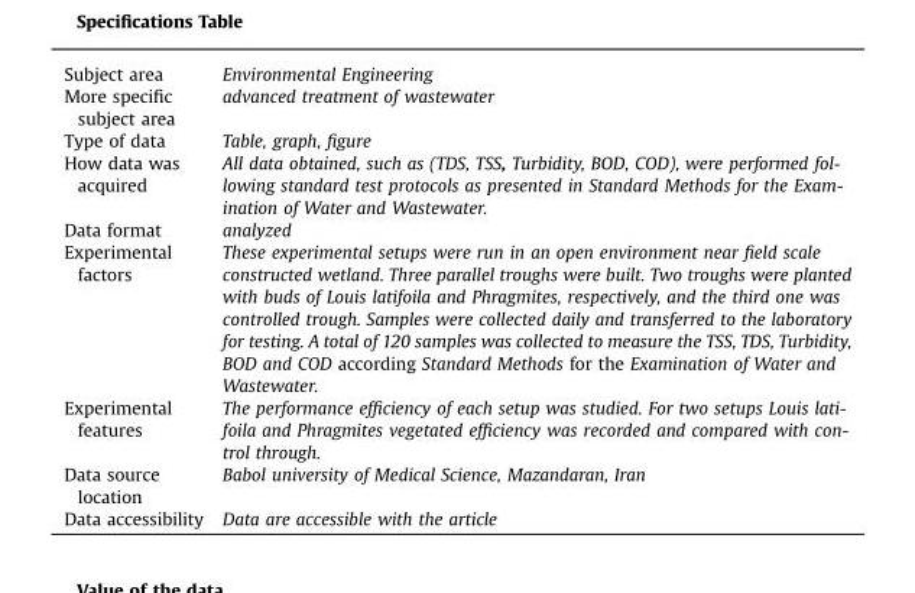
<table><thead><tr><td>Subject area</td><td>Environmental Engineering</td></tr></thead><tbody><tr><td>More specific subject area</td><td>advanced treatment of wastewater</td></tr><tr><td>Type of data</td><td>Table, graph, figure</td></tr><tr><td>How data was acquired</td><td>All data obtained, such as (TDS, TSS, Turbidity, BOD, COD), were performed fol- lowing standard test protocols as presented in Standard Methods for the Exam- ination of Water and Wastewater.</td></tr><tr><td>Data format</td><td>analyzed</td></tr><tr><td>Experimental factors</td><td>These experimental setups were run in an open environment near field scale constructed wetland. Three parallel troughs were built. Two troughs were planted with buds of Louis latifoila and Phragmites, respectively, and the third one was controlled trough. Samples were collected daily and transferred to the laboratory for testing. A total of 120 samples was collected to measure the TSS, TDS, Turbidity, BOD and COD according Standard Methods for the Examination of Water and Wastewater.</td></tr><tr><td>Experimental features</td><td>The performance efficiency of each setup was studied. For two setups Louis lati- foila and Phragmites vegetated efficiency was recorded and compared with con- trol through.</td></tr><tr><td>Data source location</td><td>Babol university of Medical Science, Mazandaran, Iran</td></tr><tr><td>Data accessibility</td><td>Data are accessible with the article</td></tr></tbody></table>